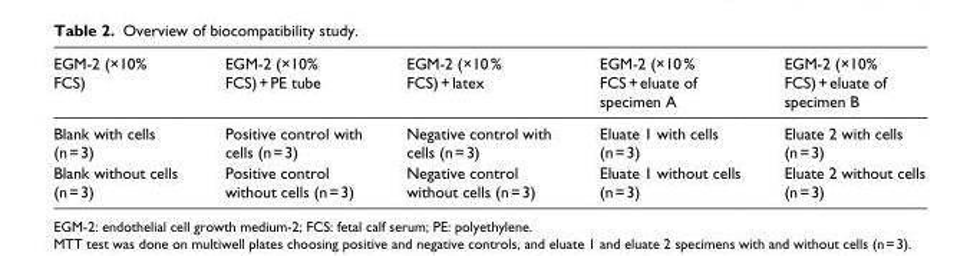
<table><thead><tr><td>EGM-2 (×10% FCS)</td><td>EGM-2 (×10% FCS) + PE tube</td><td>EGM-2 (×10 % FCS) + latex</td><td>EGM-2 (×10 % FCS + eluate of specimen A</td><td>EGM-2 (×10% FCS) + eluate of specimen B</td></tr></thead><tbody><tr><td>Blank with cells (n = 3)</td><td>Positive control with cells (n = 3)</td><td>Negative control with cells (n = 3)</td><td>Eluate 1 with cells (n = 3)</td><td>Eluate 2 with cells (n = 3)</td></tr><tr><td>Blank without cells (n = 3)</td><td>Positive control without cells (n = 3)</td><td>Negative control without cells (n = 3)</td><td>Eluate 1 without cells (n = 3)</td><td>Eluate 2 without cells (n = 3)</td></tr></tbody></table>